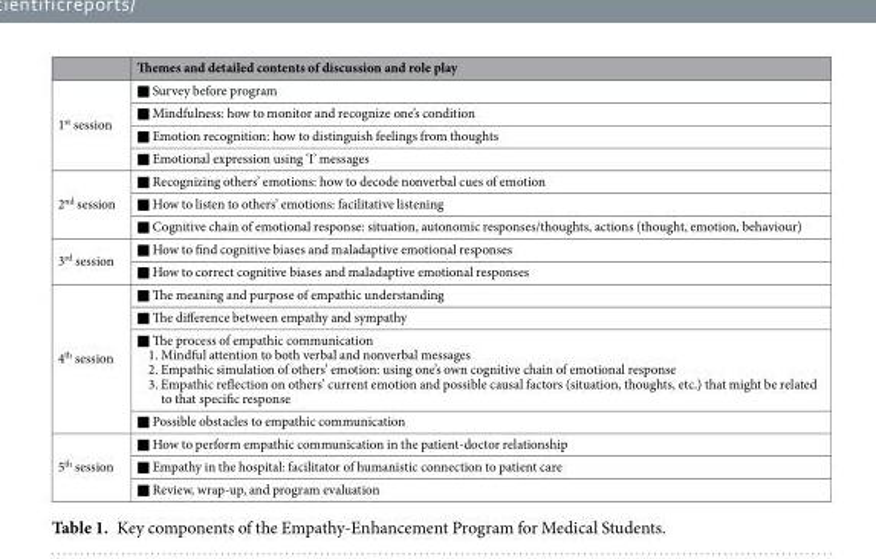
<table><thead><tr><td></td><td>Themes and detailed contents of discussion and role play</td></tr></thead><tbody><tr><td rowspan="4">1<sup>st</sup> session</td><td>■ Survey before program</td></tr><tr><td>■ Mindfulness: how to monitor and recognize one’s condition</td></tr><tr><td>■ Emotion recognition: how to distinguish feelings from thoughts</td></tr><tr><td>■ Emotional expression using ‘I’ messages</td></tr><tr><td rowspan="3">2<sup>nd</sup> session</td><td>■ Recognizing others’ emotions: how to decode nonverbal cues of emotion</td></tr><tr><td>■ How to listen to others’ emotions: facilitative listening</td></tr><tr><td>■ Cognitive chain of emotional response: situation, autonomic responses/thoughts, actions (thought, emotion, behaviour)</td></tr><tr><td rowspan="2">3<sup>rd</sup> session</td><td>■ How to find cognitive biases and maladaptive emotional responses</td></tr><tr><td>■ How to correct cognitive biases and maladaptive emotional responses</td></tr><tr><td rowspan="4">4<sup>th</sup> session</td><td>■ The meaning and purpose of empathic understanding</td></tr><tr><td>■ The difference between empathy and sympathy</td></tr><tr><td>■ The process of empathic communication 1. Mindful attention to both verbal and nonverbal messages 2. Empathic simulation of others’ emotion: using one’s own cognitive chain of emotional response 3. Empathic reflection on others’ current emotion and possible causal factors (situation, thoughts, etc.) that might be related to that specific response</td></tr><tr><td>■ Possible obstacles to empathic communication</td></tr><tr><td rowspan="3">5<sup>th</sup> session</td><td>■ How to perform empathic communication in the patient-doctor relationship</td></tr><tr><td>■ Empathy in the hospital: facilitator of humanistic connection to patient care</td></tr><tr><td>■ Review, wrap-up, and program evaluation</td></tr></tbody></table>